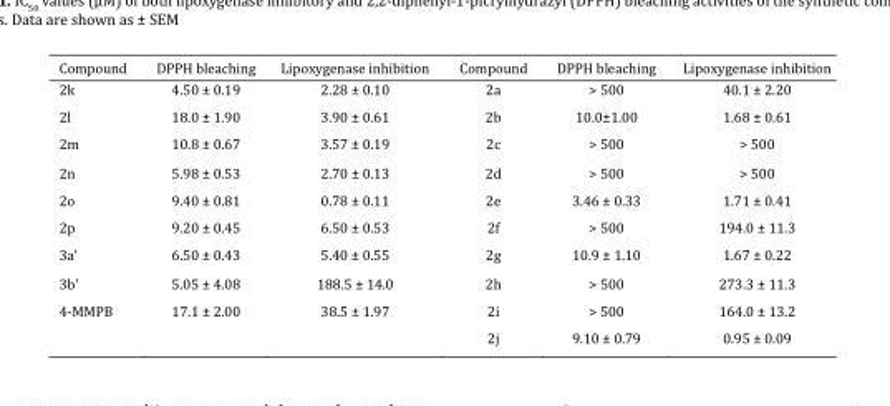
<table><thead><tr><td>Compound</td><td>DPPH bleaching</td><td>Lipoxygenase inhibition</td><td>Compound</td><td>DPPH bleaching</td><td>Lipoxygenase inhibition</td></tr></thead><tbody><tr><td>2k</td><td>4.50 ± 0.19</td><td>2.28 ± 0.10</td><td>2a</td><td>&gt; 500</td><td>40.1 ± 2.20</td></tr><tr><td>2l</td><td>18.0 ± 1.90</td><td>3.90 ± 0.61</td><td>2b</td><td>10.0±1.00</td><td>1.68 ± 0.61</td></tr><tr><td>2m</td><td>10.8 ± 0.67</td><td>3.57 ± 0.19</td><td>2c</td><td>&gt; 500</td><td>&gt; 500</td></tr><tr><td>2n</td><td>5.98 ± 0.53</td><td>2.70 ± 0.13</td><td>2d</td><td>&gt; 500</td><td>&gt; 500</td></tr><tr><td>2o</td><td>9.40 ± 0.81</td><td>0.78 ± 0.11</td><td>2e</td><td>3.46 ± 0.33</td><td>1.71 ± 0.41</td></tr><tr><td>2p</td><td>9.20 ± 0.45</td><td>6.50 ± 0.53</td><td>2f</td><td>&gt; 500</td><td>194.0 ± 11.3</td></tr><tr><td>3a&#x27;</td><td>6.50 ± 0.43</td><td>5.40 ± 0.55</td><td>2g</td><td>10.9 ± 1.10</td><td>1.67 ± 0.22</td></tr><tr><td>3b&#x27;</td><td>5.05 ± 4.08</td><td>188.5 ± 14.0</td><td>2h</td><td>&gt; 500</td><td>273.3 ± 11.3</td></tr><tr><td rowspan="2">4-MMPB</td><td>17.1 ± 2.00</td><td>38.5 ± 1.97</td><td>2i</td><td>&gt; 500</td><td>164.0 ± 13.2</td></tr><tr><td></td><td></td><td>2j</td><td>9.10 ± 0.79</td><td>0.95 ± 0.09</td></tr></tbody></table>